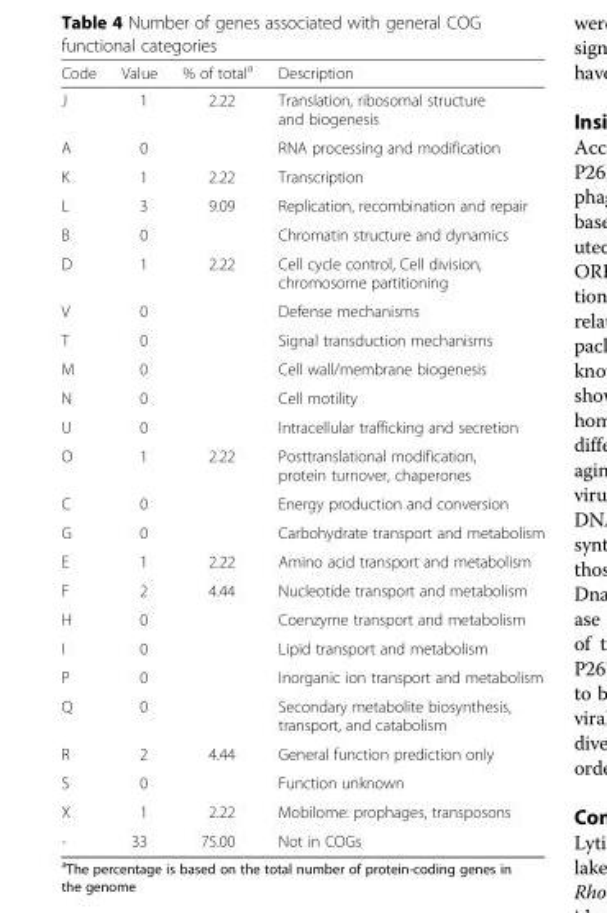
<table><thead><tr><td>Code</td><td>Value</td><td>% of total<sup>a</sup></td><td>Description</td></tr></thead><tbody><tr><td>J</td><td>1</td><td>2.22</td><td>Translation, ribosomal structure and biogenesis</td></tr><tr><td>A</td><td>0</td><td></td><td>RNA processing and modification</td></tr><tr><td>K</td><td>1</td><td>2.22</td><td>Transcription</td></tr><tr><td>L</td><td>3</td><td>9.09</td><td>Replication, recombination and repair</td></tr><tr><td>B</td><td>0</td><td></td><td>Chromatin structure and dynamics</td></tr><tr><td>D</td><td>1</td><td>2.22</td><td>Cell cycle control, Cell division, chromosome partitioning</td></tr><tr><td>V</td><td>0</td><td></td><td>Defense mechanisms</td></tr><tr><td>T</td><td>0</td><td></td><td>Signal transduction mechanisms</td></tr><tr><td>M</td><td>0</td><td></td><td>Cell wall/membrane biogenesis</td></tr><tr><td>N</td><td>0</td><td></td><td>Cell motility</td></tr><tr><td>U</td><td>0</td><td></td><td>Intracellular trafficking and secretion</td></tr><tr><td>O</td><td>1</td><td>2.22</td><td>Posttranslational modification, protein turnover, chaperones</td></tr><tr><td>C</td><td>0</td><td></td><td>Energy production and conversion</td></tr><tr><td>G</td><td>0</td><td></td><td>Carbohydrate transport and metabolism</td></tr><tr><td>E</td><td>1</td><td>2.22</td><td>Amino acid transport and metabolism</td></tr><tr><td>F</td><td>2</td><td>4.44</td><td>Nucleotide transport and metabolism</td></tr><tr><td>H</td><td>0</td><td></td><td>Coenzyme transport and metabolism</td></tr><tr><td>I</td><td>0</td><td></td><td>Lipid transport and metabolism</td></tr><tr><td>P</td><td>0</td><td></td><td>Inorganic ion transport and metabolism</td></tr><tr><td>Q</td><td>0</td><td></td><td>Secondary metabolite biosynthesis, transport, and catabolism</td></tr><tr><td>R</td><td>2</td><td>4.44</td><td>General function prediction only</td></tr><tr><td>S</td><td>0</td><td></td><td>Function unknown</td></tr><tr><td>X</td><td>1</td><td>2.22</td><td>Mobilome: prophages, transposons</td></tr><tr><td>-</td><td>33</td><td>75.00</td><td>Not in COGs</td></tr></tbody></table>